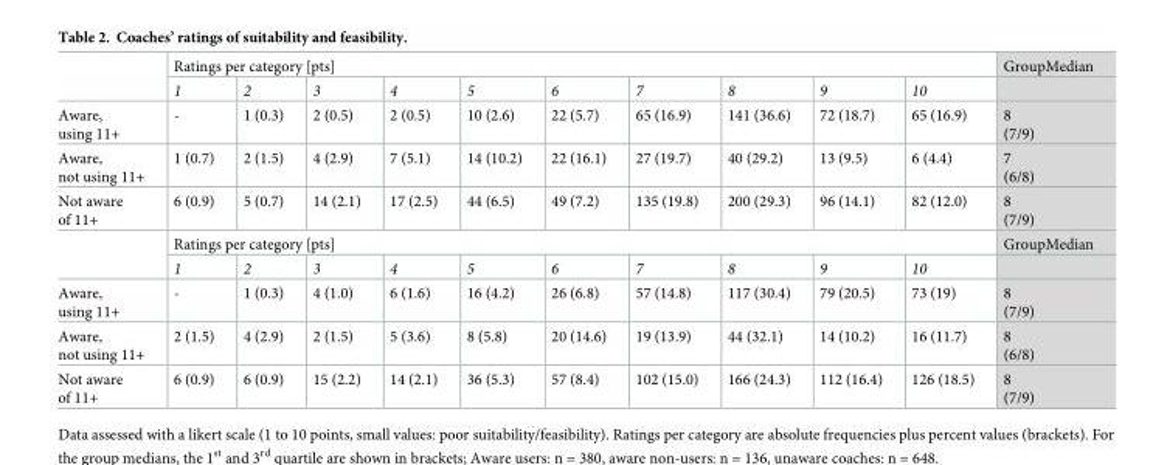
<table><thead><tr><td rowspan="2"></td><td colspan="10">Ratings per category [pts]</td><td rowspan="2">GroupMedian</td></tr><tr><td>1</td><td>2</td><td>3</td><td>4</td><td>5</td><td>6</td><td>7</td><td>8</td><td>9</td><td>10</td></tr></thead><tbody><tr><td>Aware, using 11+</td><td>-</td><td>1 (0.3)</td><td>2 (0.5)</td><td>2 (0.5)</td><td>10 (2.6)</td><td>22 (5.7)</td><td>65 (16.9)</td><td>141 (36.6)</td><td>72 (18.7)</td><td>65 (16.9)</td><td>8 (7/9)</td></tr><tr><td>Aware, not using 11+</td><td>1 (0.7)</td><td>2 (1.5)</td><td>4 (2.9)</td><td>7 (5.1)</td><td>14 (10.2)</td><td>22 (16.1)</td><td>27 (19.7)</td><td>40 (29.2)</td><td>13 (9.5)</td><td>6 (4.4)</td><td>7 (6/8)</td></tr><tr><td rowspan="3">Not aware of 11+</td><td>6 (0.9)</td><td>5 (0.7)</td><td>14 (2.1)</td><td>17 (2.5)</td><td>44 (6.5)</td><td>49 (7.2)</td><td>135 (19.8)</td><td>200 (29.3)</td><td>96 (14.1)</td><td>82 (12.0)</td><td>8 (7/9)</td></tr><tr><td colspan="10">Ratings per category [pts]</td><td>GroupMedian</td></tr><tr><td>1</td><td>2</td><td>3</td><td>4</td><td>5</td><td>6</td><td>7</td><td>8</td><td>9</td><td>10</td><td></td></tr><tr><td>Aware, using 11+</td><td>-</td><td>1 (0.3)</td><td>4 (1.0)</td><td>6 (1.6)</td><td>16 (4.2)</td><td>26 (6.8)</td><td>57 (14.8)</td><td>117 (30.4)</td><td>79 (20.5)</td><td>73 (19)</td><td>8 (7/9)</td></tr><tr><td>Aware, not using 11+</td><td>2 (1.5)</td><td>4 (2.9)</td><td>2 (1.5)</td><td>5 (3.6)</td><td>8 (5.8)</td><td>20 (14.6)</td><td>19 (13.9)</td><td>44 (32.1)</td><td>14 (10.2)</td><td>16 (11.7)</td><td>8 (6/8)</td></tr><tr><td>Not aware of 11+</td><td>6 (0.9)</td><td>6 (0.9)</td><td>15 (2.2)</td><td>14 (2.1)</td><td>36 (5.3)</td><td>57 (8.4)</td><td>102 (15.0)</td><td>166 (24.3)</td><td>112 (16.4)</td><td>126 (18.5)</td><td>8 (7/9)</td></tr></tbody></table>